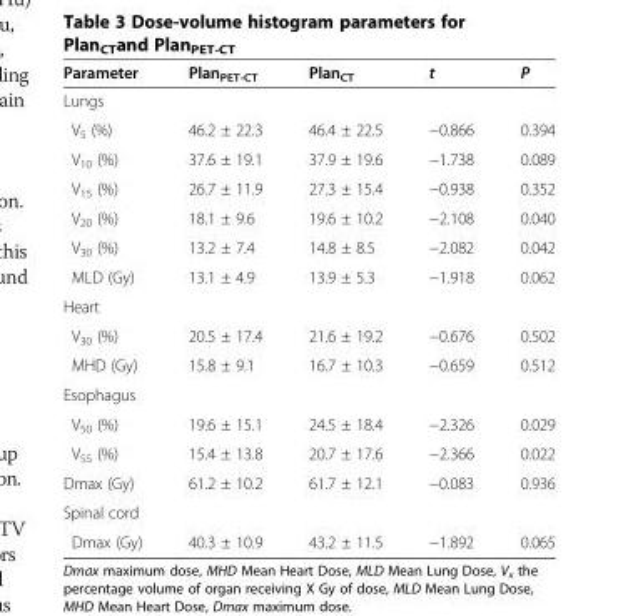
<table><thead><tr><td>Parameter</td><td>Plan<sub>PET-CT</sub></td><td>Plan<sub>CT</sub></td><td>t</td><td>P</td></tr></thead><tbody><tr><td colspan="5">Lungs</td></tr><tr><td>V<sub>5</sub> (%)</td><td>46.2 ± 22.3</td><td>46.4 ± 22.5</td><td>−0.866</td><td>0.394</td></tr><tr><td>V<sub>10</sub> (%)</td><td>37.6 ± 19.1</td><td>37.9 ± 19.6</td><td>−1.738</td><td>0.089</td></tr><tr><td>V<sub>15</sub> (%)</td><td>26.7 ± 11.9</td><td>27.3 ± 15.4</td><td>−0.938</td><td>0.352</td></tr><tr><td>V<sub>20</sub> (%)</td><td>18.1 ± 9.6</td><td>19.6 ± 10.2</td><td>−2.108</td><td>0.040</td></tr><tr><td>V<sub>30</sub> (%)</td><td>13.2 ± 7.4</td><td>14.8 ± 8.5</td><td>−2.082</td><td>0.042</td></tr><tr><td>MLD (Gy)</td><td>13.1 ± 4.9</td><td>13.9 ± 5.3</td><td>−1.918</td><td>0.062</td></tr><tr><td colspan="5">Heart</td></tr><tr><td>V<sub>30</sub> (%)</td><td>20.5 ± 17.4</td><td>21.6 ± 19.2</td><td>−0.676</td><td>0.502</td></tr><tr><td>MHD (Gy)</td><td>15.8 ± 9.1</td><td>16.7 ± 10.3</td><td>−0.659</td><td>0.512</td></tr><tr><td colspan="5">Esophagus</td></tr><tr><td>V<sub>50</sub> (%)</td><td>19.6 ± 15.1</td><td>24.5 ± 18.4</td><td>−2.326</td><td>0.029</td></tr><tr><td>V<sub>55</sub> (%)</td><td>15.4 ± 13.8</td><td>20.7 ± 17.6</td><td>−2.366</td><td>0.022</td></tr><tr><td>Dmax (Gy)</td><td>61.2 ± 10.2</td><td>61.7 ± 12.1</td><td>−0.083</td><td>0.936</td></tr><tr><td colspan="5">Spinal cord</td></tr><tr><td>Dmax (Gy)</td><td>40.3 ± 10.9</td><td>43.2 ± 11.5</td><td>−1.892</td><td>0.065</td></tr></tbody></table>